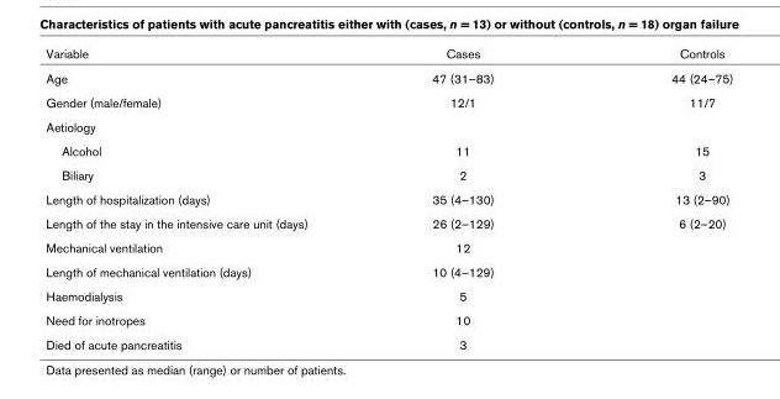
<table><thead><tr><td>Variable</td><td>Cases</td><td>Controls</td></tr></thead><tbody><tr><td>Age</td><td>47 (31–83)</td><td>44 (24–75)</td></tr><tr><td>Gender (male/female)</td><td>12/1</td><td>11/7</td></tr><tr><td colspan="3">Aetiology</td></tr><tr><td>Alcohol</td><td>11</td><td>15</td></tr><tr><td>Biliary</td><td>2</td><td>3</td></tr><tr><td>Length of hospitalization (days)</td><td>35 (4–130)</td><td>13 (2–90)</td></tr><tr><td>Length of the stay in the intensive care unit (days)</td><td>26 (2–129)</td><td>6 (2–20)</td></tr><tr><td>Mechanical ventilation</td><td>12</td><td></td></tr><tr><td>Length of mechanical ventilation (days)</td><td>10 (4–129)</td><td></td></tr><tr><td>Haemodialysis</td><td>5</td><td></td></tr><tr><td>Need for inotropes</td><td>10</td><td></td></tr><tr><td>Died of acute pancreatitis</td><td>3</td><td></td></tr></tbody></table>